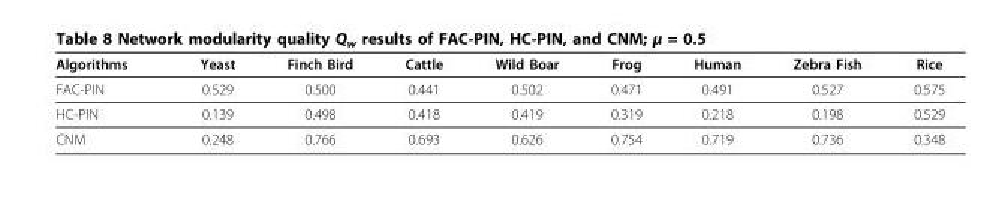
<table><thead><tr><td>Algorithms</td><td>Yeast</td><td>Finch Bird</td><td>Cattle</td><td>Wild Boar</td><td>Frog</td><td>Human</td><td>Zebra Fish</td><td>Rice</td></tr></thead><tbody><tr><td>FAC-PIN</td><td>0.529</td><td>0.500</td><td>0.441</td><td>0.502</td><td>0.471</td><td>0.491</td><td>0.527</td><td>0.575</td></tr><tr><td>HC-PIN</td><td>0.139</td><td>0.498</td><td>0.418</td><td>0.419</td><td>0.319</td><td>0.218</td><td>0.198</td><td>0.529</td></tr><tr><td>CNM</td><td>0.248</td><td>0.766</td><td>0.693</td><td>0.626</td><td>0.754</td><td>0.719</td><td>0.736</td><td>0.348</td></tr></tbody></table>